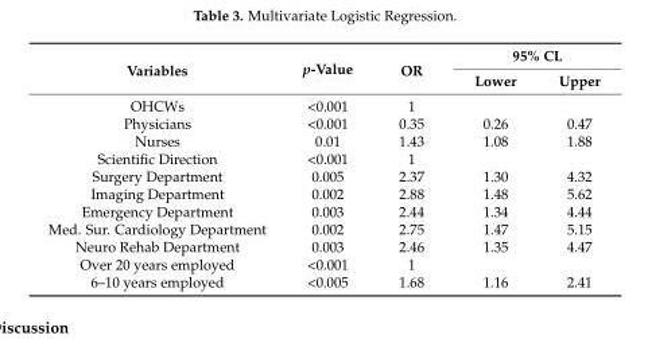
<table><thead><tr><td rowspan="2">Variables</td><td rowspan="2">p-Value</td><td rowspan="2">OR</td><td colspan="2">95% CL</td></tr><tr><td>Lower</td><td>Upper</td></tr></thead><tbody><tr><td>OHCWs</td><td>&lt;0.001</td><td>1</td><td></td><td></td></tr><tr><td>Physicians</td><td>&lt;0.001</td><td>0.35</td><td>0.26</td><td>0.47</td></tr><tr><td>Nurses</td><td>0.01</td><td>1.43</td><td>1.08</td><td>1.88</td></tr><tr><td>Scientific Direction</td><td>&lt;0.001</td><td>1</td><td></td><td></td></tr><tr><td>Surgery Department</td><td>0.005</td><td>2.37</td><td>1.30</td><td>4.32</td></tr><tr><td>Imaging Department</td><td>0.002</td><td>2.88</td><td>1.48</td><td>5.62</td></tr><tr><td>Emergency Department</td><td>0.003</td><td>2.44</td><td>1.34</td><td>4.44</td></tr><tr><td>Med. Sur. Cardiology Department</td><td>0.002</td><td>2.75</td><td>1.47</td><td>5.15</td></tr><tr><td>Neuro Rehab Department</td><td>0.003</td><td>2.46</td><td>1.35</td><td>4.47</td></tr><tr><td>Over 20 years employed</td><td>&lt;0.001</td><td>1</td><td></td><td></td></tr><tr><td>6–10 years employed</td><td>&lt;0.005</td><td>1.68</td><td>1.16</td><td>2.41</td></tr></tbody></table>